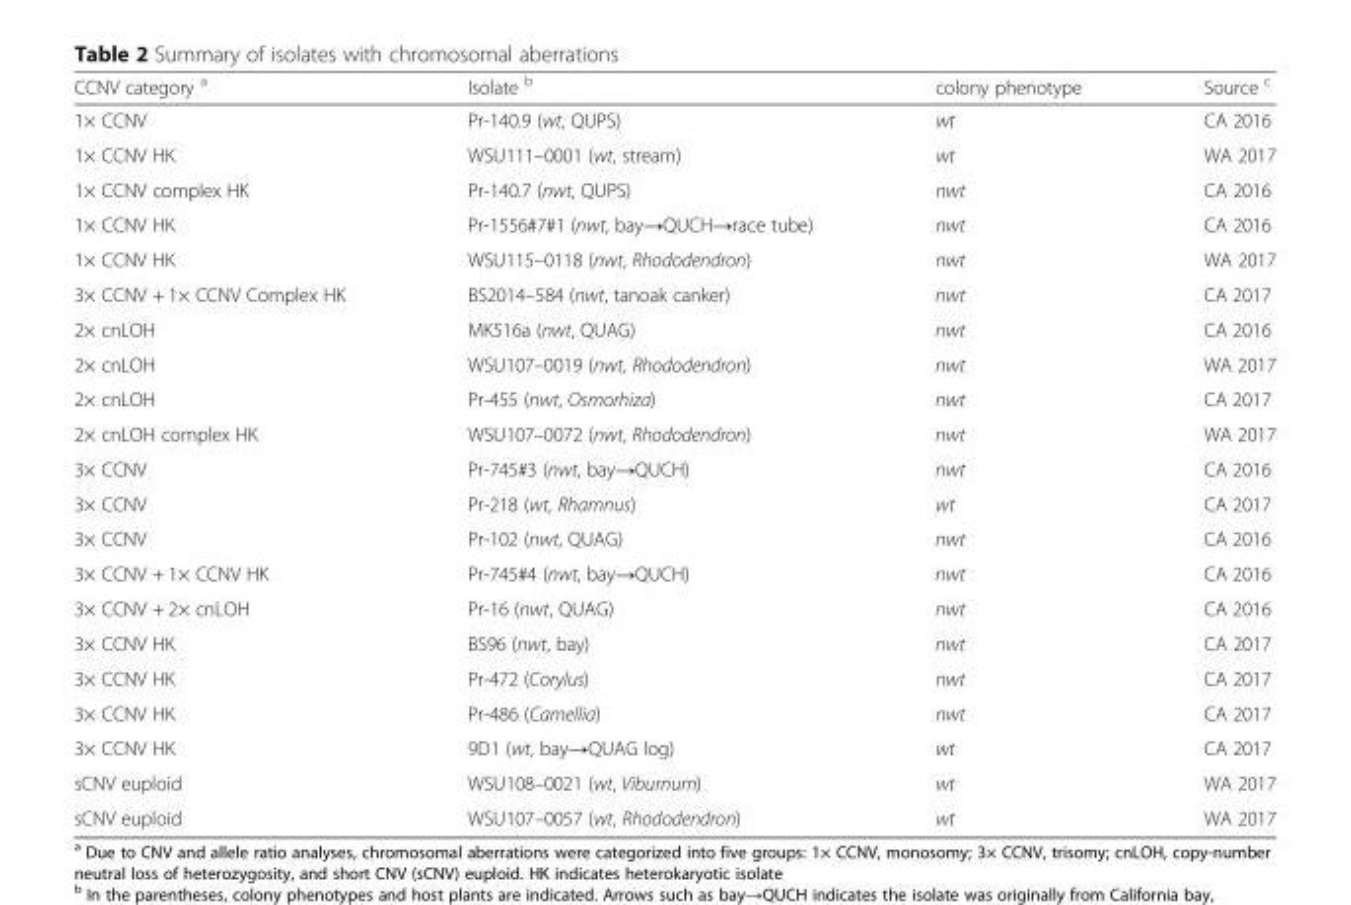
<table><thead><tr><td>CCNV category <sup>a</sup></td><td>Isolate <sup>b</sup></td><td>colony phenotype</td><td>Source <sup>c</sup></td></tr></thead><tbody><tr><td>1× CCNV</td><td>Pr-140.9 (wt, QUPS)</td><td>wt</td><td>CA 2016</td></tr><tr><td>1× CCNV HK</td><td>WSU111–0001 (wt, stream)</td><td>wt</td><td>WA 2017</td></tr><tr><td>1× CCNV complex HK</td><td>Pr-140.7 (nwt, QUPS)</td><td>nwt</td><td>CA 2016</td></tr><tr><td>1× CCNV HK</td><td>Pr-1556#7#1 (nwt, bay→QUCH→race tube)</td><td>nwt</td><td>CA 2016</td></tr><tr><td>1× CCNV HK</td><td>WSU115–0118 (nwt, Rhododendron)</td><td>nwt</td><td>WA 2017</td></tr><tr><td>3× CCNV + 1× CCNV Complex HK</td><td>BS2014–584 (nwt, tanoak canker)</td><td>nwt</td><td>CA 2017</td></tr><tr><td>2× cnLOH</td><td>MK516a (nwt, QUAG)</td><td>nwt</td><td>CA 2016</td></tr><tr><td>2× cnLOH</td><td>WSU107–0019 (nwt, Rhododendron)</td><td>nwt</td><td>WA 2017</td></tr><tr><td>2× cnLOH</td><td>Pr-455 (nwt, Osmorhiza)</td><td>nwt</td><td>CA 2017</td></tr><tr><td>2× cnLOH complex HK</td><td>WSU107–0072 (nwt, Rhododendron)</td><td>nwt</td><td>WA 2017</td></tr><tr><td>3× CCNV</td><td>Pr-745#3 (nwt, bay→QUCH)</td><td>nwt</td><td>CA 2016</td></tr><tr><td>3× CCNV</td><td>Pr-218 (wt, Rhamnus)</td><td>wt</td><td>CA 2017</td></tr><tr><td>3× CCNV</td><td>Pr-102 (nwt, QUAG)</td><td>nwt</td><td>CA 2016</td></tr><tr><td>3× CCNV + 1× CCNV HK</td><td>Pr-745#4 (nwt, bay→QUCH)</td><td>nwt</td><td>CA 2016</td></tr><tr><td>3× CCNV + 2× cnLOH</td><td>Pr-16 (nwt, QUAG)</td><td>nwt</td><td>CA 2016</td></tr><tr><td>3× CCNV HK</td><td>BS96 (nwt, bay)</td><td>nwt</td><td>CA 2017</td></tr><tr><td>3× CCNV HK</td><td>Pr-472 (Corylus)</td><td>nwt</td><td>CA 2017</td></tr><tr><td>3× CCNV HK</td><td>Pr-486 (Camellia)</td><td>nwt</td><td>CA 2017</td></tr><tr><td>3× CCNV HK</td><td>9D1 (wt, bay→QUAG log)</td><td>wt</td><td>CA 2017</td></tr><tr><td>sCNV euploid</td><td>WSU108–0021 (wt, Viburnum)</td><td>wt</td><td>WA 2017</td></tr><tr><td>sCNV euploid</td><td>WSU107–0057 (wt, Rhododendron)</td><td>wt</td><td>WA 2017</td></tr></tbody></table>